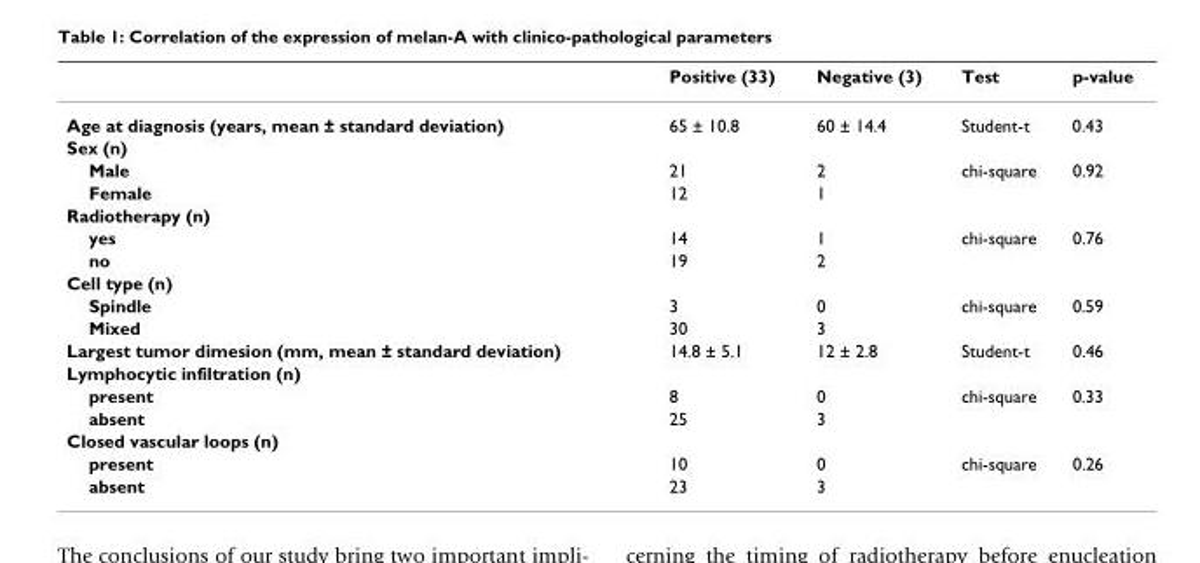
<table><thead><tr><td></td><td>Positive (33)</td><td>Negative (3)</td><td>Test</td><td>p-value</td></tr></thead><tbody><tr><td>Age at diagnosis (years, mean ± standard deviation)</td><td>65 ± 10.8</td><td>60 ± 14.4</td><td>Student-t</td><td>0.43</td></tr><tr><td colspan="5">Sex (n)</td></tr><tr><td>Male</td><td>21</td><td>2</td><td>chi-square</td><td>0.92</td></tr><tr><td>Female</td><td>12</td><td>1</td><td></td><td></td></tr><tr><td colspan="5">Radiotherapy (n)</td></tr><tr><td>yes</td><td>14</td><td>1</td><td>chi-square</td><td>0.76</td></tr><tr><td>no</td><td>19</td><td>2</td><td></td><td></td></tr><tr><td colspan="5">Cell type (n)</td></tr><tr><td>Spindle</td><td>3</td><td>0</td><td>chi-square</td><td>0.59</td></tr><tr><td>Mixed</td><td>30</td><td>3</td><td></td><td></td></tr><tr><td>Largest tumor dimesion (mm, mean ± standard deviation)</td><td>14.8 ± 5.1</td><td>12 ± 2.8</td><td>Student-t</td><td>0.46</td></tr><tr><td colspan="5">Lymphocytic infiltration (n)</td></tr><tr><td>present</td><td>8</td><td>0</td><td>chi-square</td><td>0.33</td></tr><tr><td>absent</td><td>25</td><td>3</td><td></td><td></td></tr><tr><td colspan="5">Closed vascular loops (n)</td></tr><tr><td>present</td><td>10</td><td>0</td><td>chi-square</td><td>0.26</td></tr><tr><td>absent</td><td>23</td><td>3</td><td></td><td></td></tr></tbody></table>